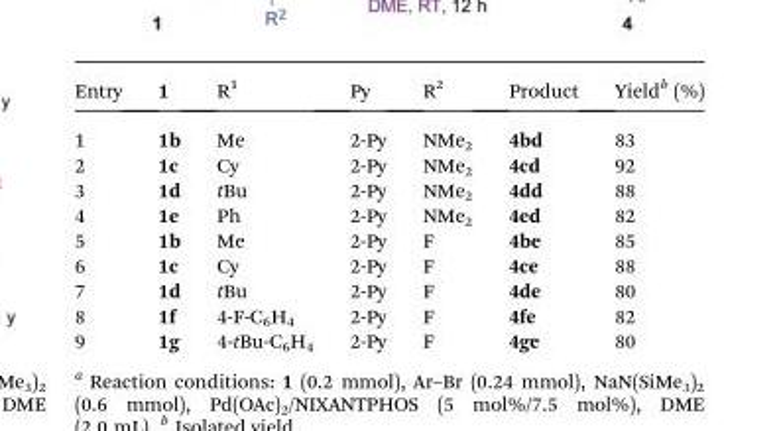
<table><thead><tr><td>Entry</td><td>1</td><td>R<sup>1</sup></td><td>Py</td><td>R<sup>2</sup></td><td>Product</td><td>Yield<sup>b</sup> (%)</td></tr></thead><tbody><tr><td>1</td><td>1b</td><td>Me</td><td>2-Py</td><td>NMe<sub>2</sub></td><td>4bd</td><td>83</td></tr><tr><td>2</td><td>1c</td><td>Cy</td><td>2-Py</td><td>NMe<sub>2</sub></td><td>4cd</td><td>92</td></tr><tr><td>3</td><td>1d</td><td>tBu</td><td>2-Py</td><td>NMe<sub>2</sub></td><td>4dd</td><td>88</td></tr><tr><td>4</td><td>1e</td><td>Ph</td><td>2-Py</td><td>NMe<sub>2</sub></td><td>4ed</td><td>82</td></tr><tr><td>5</td><td>1b</td><td>Me</td><td>2-Py</td><td>F</td><td>4be</td><td>85</td></tr><tr><td>6</td><td>1c</td><td>Cy</td><td>2-Py</td><td>F</td><td>4ce</td><td>88</td></tr><tr><td>7</td><td>1d</td><td>tBu</td><td>2-Py</td><td>F</td><td>4de</td><td>80</td></tr><tr><td>8</td><td>1f</td><td>4-F-C<sub>6</sub>H<sub>4</sub></td><td>2-Py</td><td>F</td><td>4fe</td><td>82</td></tr><tr><td>9</td><td>1g</td><td>4-tBu-C<sub>6</sub>H<sub>4</sub></td><td>2-Py</td><td>F</td><td>4ge</td><td>80</td></tr></tbody></table>